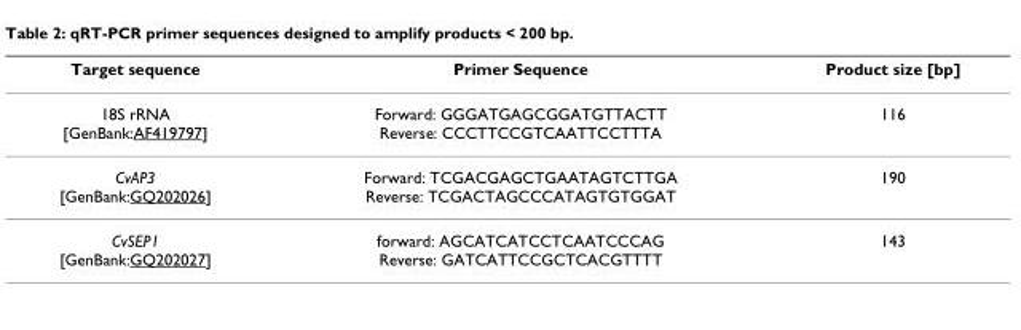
<table><thead><tr><td>Target sequence</td><td>Primer Sequence</td><td>Product size [bp]</td></tr></thead><tbody><tr><td>18S rRNA [GenBank:AF419797]</td><td>Forward: GGGATGAGCGGATGTTACTT Reverse: CCCTTCCGTCAATTCCTTTA</td><td>116</td></tr><tr><td>CvAP3 [GenBank:GQ202026]</td><td>Forward: TCGACGAGCTGAATAGTCTTGA Reverse: TCGACTAGCCCATAGTGTGGAT</td><td>190</td></tr><tr><td>CvSEP1 [GenBank:GQ202027]</td><td>forward: AGCATCATCCTCAATCCCAG Reverse: GATCATTCCGCTCACGTTTT</td><td>143</td></tr></tbody></table>